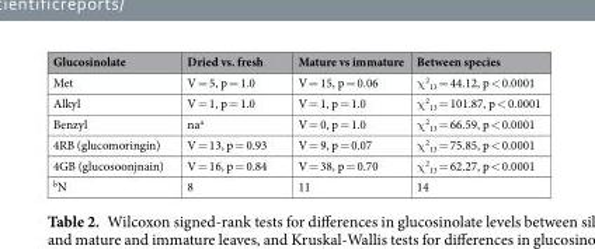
<table><thead><tr><td>Glucosinolate</td><td>Dried vs. fresh</td><td>Mature vs immature</td><td>Between species</td></tr></thead><tbody><tr><td>Met</td><td>V = 5, p = 1.0</td><td>V = 15, p = 0.06</td><td>χ<sup>2</sup> <sub>13</sub> = 44.12, p &lt; 0.0001</td></tr><tr><td>Alkyl</td><td>V = 1, p = 1.0</td><td>V = 1, p = 1.0</td><td>χ<sup>2</sup> <sub>13</sub> = 101.87, p &lt; 0.0001</td></tr><tr><td>Benzyl</td><td>na<sup>a</sup></td><td>V = 0, p = 1.0</td><td>χ<sup>2</sup> <sub>13</sub> = 66.59, p &lt; 0.0001</td></tr><tr><td>4RB (glucomoringin)</td><td>V = 13, p = 0.93</td><td>V = 9, p = 0.07</td><td>χ<sup>2</sup> <sub>13</sub> = 75.85, p &lt; 0.0001</td></tr><tr><td>4GB (glucosoonjnain)</td><td>V = 16, p = 0.84</td><td>V = 38, p = 0.70</td><td>χ<sup>2</sup> <sub>13</sub> = 62.27, p &lt; 0.0001</td></tr><tr><td><sup>b</sup>N</td><td>8</td><td>11</td><td>14</td></tr></tbody></table>